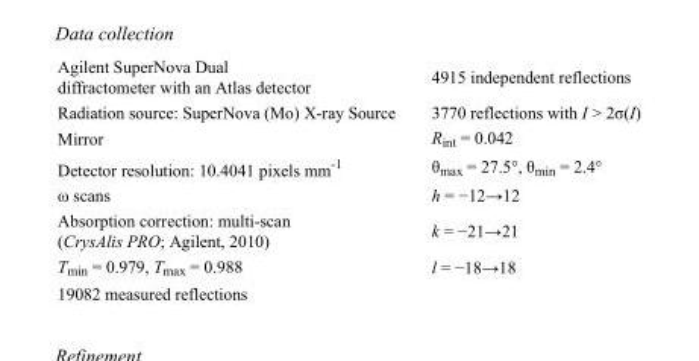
<table><tbody><tr><td>Agilent SuperNova Dual diffractometer with an Atlas detector</td><td>4915 independent reflections</td></tr><tr><td>Radiation source: SuperNova (Mo) X-ray Source</td><td>3770 reflections with I &gt; 2σ(I)</td></tr><tr><td>Mirror</td><td>R<sub>int</sub> = 0.042</td></tr><tr><td>Detector resolution: 10.4041 pixels mm<sup>-1</sup></td><td>θ<sub>max</sub> = 27.5°, θ<sub>min</sub> = 2.4°</td></tr><tr><td>ω scans</td><td>h = −12→12</td></tr><tr><td>Absorption correction: multi-scan (CrysAlis PRO; Agilent, 2010)</td><td>k = −21→21</td></tr><tr><td>T<sub>min</sub> = 0.979, T<sub>max</sub> = 0.988</td><td>l = −18→18</td></tr><tr><td>19082 measured reflections</td><td></td></tr></tbody></table>